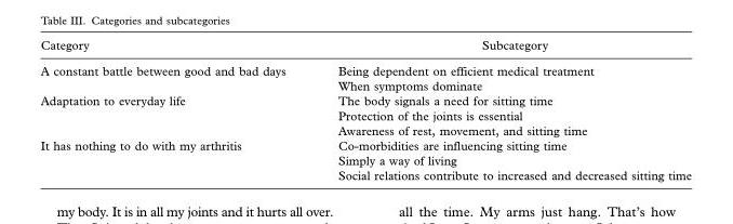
<table><thead><tr><td>Category</td><td>Subcategory</td></tr></thead><tbody><tr><td rowspan="2">A constant battle between good and bad days</td><td>Being dependent on efficient medical treatment</td></tr><tr><td>When symptoms dominate</td></tr><tr><td rowspan="3">Adaptation to everyday life</td><td>The body signals a need for sitting time</td></tr><tr><td>Protection of the joints is essential</td></tr><tr><td>Awareness of rest, movement, and sitting time</td></tr><tr><td rowspan="3">It has nothing to do with my arthritis</td><td>Co-morbidities are influencing sitting time</td></tr><tr><td>Simply a way of living</td></tr><tr><td>Social relations contribute to increased and decreased sitting time</td></tr></tbody></table>